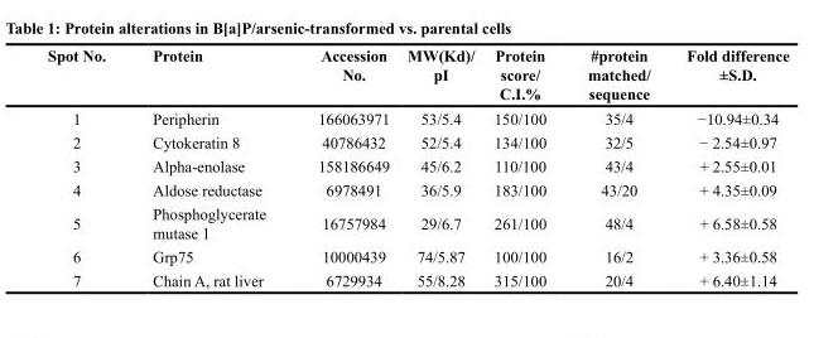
<table><thead><tr><td>Spot No.</td><td>Protein</td><td>Accession No.</td><td>MW(Kd)/ pI</td><td>Protein score/ C.I.%</td><td>#protein matched/ sequence</td><td>Fold difference ±S.D.</td></tr></thead><tbody><tr><td>1</td><td>Peripherin</td><td>166063971</td><td>53/5.4</td><td>150/100</td><td>35/4</td><td>−10.94±0.34</td></tr><tr><td>2</td><td>Cytokeratin 8</td><td>40786432</td><td>52/5.4</td><td>134/100</td><td>32/5</td><td>− 2.54±0.97</td></tr><tr><td>3</td><td>Alpha-enolase</td><td>158186649</td><td>45/6.2</td><td>110/100</td><td>43/4</td><td>+ 2.55±0.01</td></tr><tr><td>4</td><td>Aldose reductase</td><td>6978491</td><td>36/5.9</td><td>183/100</td><td>43/20</td><td>+ 4.35±0.09</td></tr><tr><td>5</td><td>Phosphoglycerate mutase 1</td><td>16757984</td><td>29/6.7</td><td>261/100</td><td>48/4</td><td>+ 6.58±0.58</td></tr><tr><td>6</td><td>Grp75</td><td>10000439</td><td>74/5.87</td><td>100/100</td><td>16/2</td><td>+ 3.36±0.58</td></tr><tr><td>7</td><td>Chain A, rat liver</td><td>6729934</td><td>55/8.28</td><td>315/100</td><td>20/4</td><td>+ 6.40±1.14</td></tr></tbody></table>